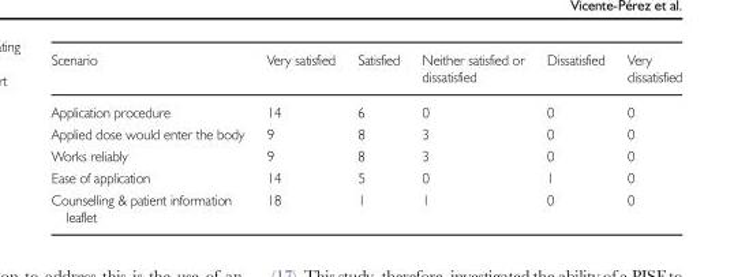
<table><thead><tr><td>Scenario</td><td>Very satisfied</td><td>Satisfied</td><td>Neither satisfied or dissatisfied</td><td>Dissatisfied</td><td>Very dissatisfied</td></tr></thead><tbody><tr><td>Application procedure</td><td>14</td><td>6</td><td>0</td><td>0</td><td>0</td></tr><tr><td>Applied dose would enter the body</td><td>9</td><td>8</td><td>3</td><td>0</td><td>0</td></tr><tr><td>Works reliably</td><td>9</td><td>8</td><td>3</td><td>0</td><td>0</td></tr><tr><td>Ease of application</td><td>14</td><td>5</td><td>0</td><td>1</td><td>0</td></tr><tr><td>Counselling &amp; patient information leaflet</td><td>18</td><td>1</td><td>1</td><td>0</td><td>0</td></tr></tbody></table>